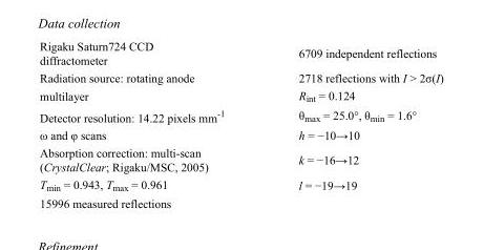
<table><tbody><tr><td>Rigaku Saturn724 CCD diffractometer</td><td>6709 independent reflections</td></tr><tr><td>Radiation source: rotating anode</td><td>2718 reflections with I &gt; 2σ(I)</td></tr><tr><td>multilayer</td><td>R<sub>int</sub> = 0.124</td></tr><tr><td>Detector resolution: 14.22 pixels mm<sup>-1</sup></td><td>θ<sub>max</sub> = 25.0°, θ<sub>min</sub> = 1.6°</td></tr><tr><td>ω and φ scans</td><td>h = −10→10</td></tr><tr><td>Absorption correction: multi-scan (CrystalClear; Rigaku/MSC, 2005)</td><td>k = −16→12</td></tr><tr><td>T<sub>min</sub> = 0.943, T<sub>max</sub> = 0.961</td><td>l = −19→19</td></tr><tr><td>15996 measured reflections</td><td></td></tr></tbody></table>